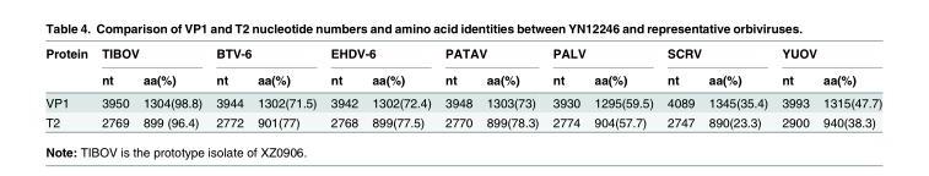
<table><thead><tr><td rowspan="2">Protein</td><td colspan="2">TIBOV</td><td colspan="2">BTV-6</td><td colspan="2">EHDV-6</td><td colspan="2">PATAV</td><td colspan="2">PALV</td><td colspan="2">SCRV</td><td colspan="2">YUOV</td></tr><tr><td>nt</td><td>aa(%)</td><td>nt</td><td>aa(%)</td><td>nt</td><td>aa(%)</td><td>nt</td><td>aa(%)</td><td>nt</td><td>aa(%)</td><td>nt</td><td>aa(%)</td><td>nt</td><td>aa(%)</td></tr></thead><tbody><tr><td>VP1</td><td>3950</td><td>1304(98.8)</td><td>3944</td><td>1302(71.5)</td><td>3942</td><td>1302(72.4)</td><td>3948</td><td>1303(73)</td><td>3930</td><td>1295(59.5)</td><td>4089</td><td>1345(35.4)</td><td>3993</td><td>1315(47.7)</td></tr><tr><td>T2</td><td>2769</td><td>899 (96.4)</td><td>2772</td><td>901(77)</td><td>2768</td><td>899(77.5)</td><td>2770</td><td>899(78.3)</td><td>2774</td><td>904(57.7)</td><td>2747</td><td>890(23.3)</td><td>2900</td><td>940(38.3)</td></tr></tbody></table>